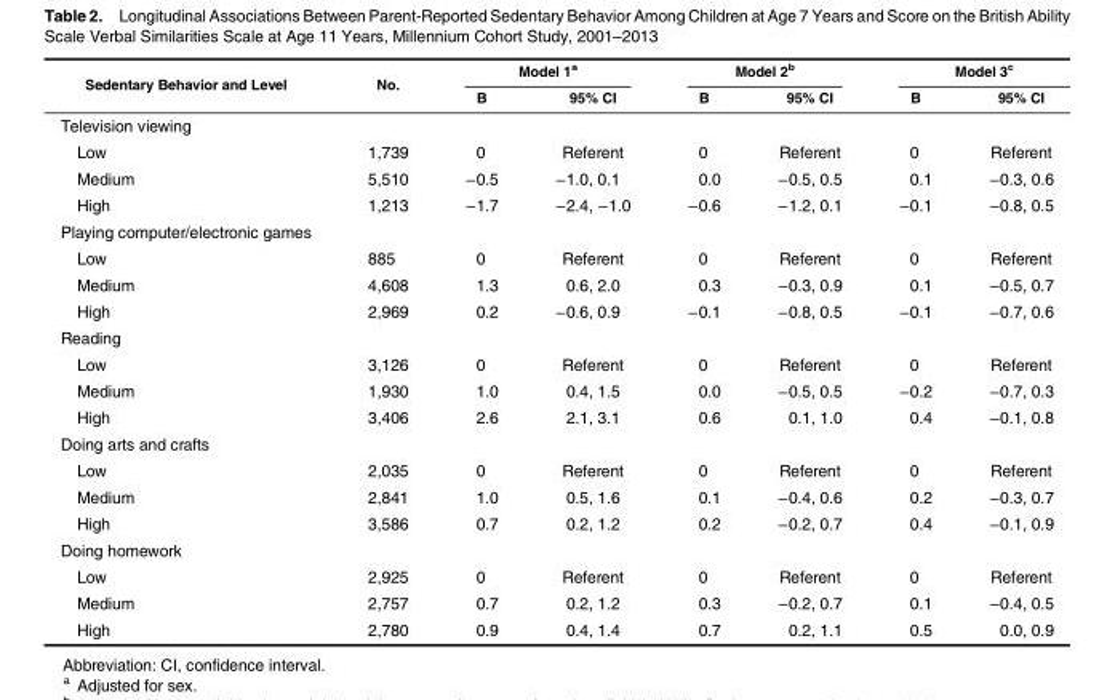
<table><thead><tr><td rowspan="2">Sedentary Behavior and Level</td><td rowspan="2">No.</td><td colspan="2">Model 1<sup>a</sup></td><td colspan="2">Model 2<sup>b</sup></td><td colspan="2">Model 3<sup>c</sup></td></tr><tr><td>B</td><td>95% CI</td><td>B</td><td>95% CI</td><td>B</td><td>95% CI</td></tr></thead><tbody><tr><td colspan="8">Television viewing</td></tr><tr><td>Low</td><td>1,739</td><td>0</td><td>Referent</td><td>0</td><td>Referent</td><td>0</td><td>Referent</td></tr><tr><td>Medium</td><td>5,510</td><td>−0.5</td><td>−1.0, 0.1</td><td>0.0</td><td>−0.5, 0.5</td><td>0.1</td><td>−0.3, 0.6</td></tr><tr><td>High</td><td>1,213</td><td>−1.7</td><td>−2.4, −1.0</td><td>−0.6</td><td>−1.2, 0.1</td><td>−0.1</td><td>−0.8, 0.5</td></tr><tr><td colspan="8">Playing computer/electronic games</td></tr><tr><td>Low</td><td>885</td><td>0</td><td>Referent</td><td>0</td><td>Referent</td><td>0</td><td>Referent</td></tr><tr><td>Medium</td><td>4,608</td><td>1.3</td><td>0.6, 2.0</td><td>0.3</td><td>−0.3, 0.9</td><td>0.1</td><td>−0.5, 0.7</td></tr><tr><td>High</td><td>2,969</td><td>0.2</td><td>−0.6, 0.9</td><td>−0.1</td><td>−0.8, 0.5</td><td>−0.1</td><td>−0.7, 0.6</td></tr><tr><td colspan="8">Reading</td></tr><tr><td>Low</td><td>3,126</td><td>0</td><td>Referent</td><td>0</td><td>Referent</td><td>0</td><td>Referent</td></tr><tr><td>Medium</td><td>1,930</td><td>1.0</td><td>0.4, 1.5</td><td>0.0</td><td>−0.5, 0.5</td><td>−0.2</td><td>−0.7, 0.3</td></tr><tr><td>High</td><td>3,406</td><td>2.6</td><td>2.1, 3.1</td><td>0.6</td><td>0.1, 1.0</td><td>0.4</td><td>−0.1, 0.8</td></tr><tr><td colspan="8">Doing arts and crafts</td></tr><tr><td>Low</td><td>2,035</td><td>0</td><td>Referent</td><td>0</td><td>Referent</td><td>0</td><td>Referent</td></tr><tr><td>Medium</td><td>2,841</td><td>1.0</td><td>0.5, 1.6</td><td>0.1</td><td>−0.4, 0.6</td><td>0.2</td><td>−0.3, 0.7</td></tr><tr><td>High</td><td>3,586</td><td>0.7</td><td>0.2, 1.2</td><td>0.2</td><td>−0.2, 0.7</td><td>0.4</td><td>−0.1, 0.9</td></tr><tr><td colspan="8">Doing homework</td></tr><tr><td>Low</td><td>2,925</td><td>0</td><td>Referent</td><td>0</td><td>Referent</td><td>0</td><td>Referent</td></tr><tr><td>Medium</td><td>2,757</td><td>0.7</td><td>0.2, 1.2</td><td>0.3</td><td>−0.2, 0.7</td><td>0.1</td><td>−0.4, 0.5</td></tr><tr><td>High</td><td>2,780</td><td>0.9</td><td>0.4, 1.4</td><td>0.7</td><td>0.2, 1.1</td><td>0.5</td><td>0.0, 0.9</td></tr></tbody></table>